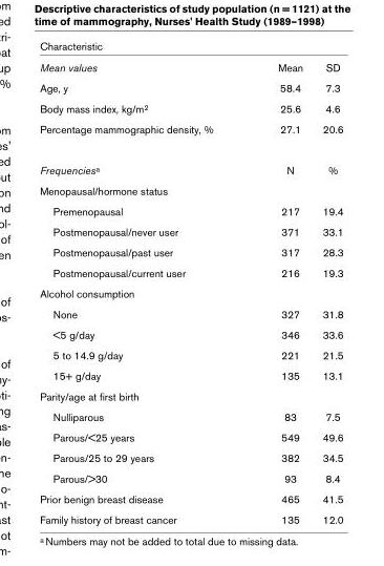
<table><thead><tr><td>Characteristic</td><td></td><td></td></tr></thead><tbody><tr><td>Mean values</td><td>Mean</td><td>SD</td></tr><tr><td>Age, y</td><td>58.4</td><td>7.3</td></tr><tr><td>Body mass index, kg/m<sup>2</sup></td><td>25.6</td><td>4.6</td></tr><tr><td>Percentage mammographic density, %</td><td>27.1</td><td>20.6</td></tr><tr><td>Frequencies<sup>a</sup></td><td>N</td><td>%</td></tr><tr><td colspan="3">Menopausal/hormone status</td></tr><tr><td>Premenopausal</td><td>217</td><td>19.4</td></tr><tr><td>Postmenopausal/never user</td><td>371</td><td>33.1</td></tr><tr><td>Postmenopausal/past user</td><td>317</td><td>28.3</td></tr><tr><td>Postmenopausal/current user</td><td>216</td><td>19.3</td></tr><tr><td colspan="3">Alcohol consumption</td></tr><tr><td>None</td><td>327</td><td>31.8</td></tr><tr><td>&lt;5 g/day</td><td>346</td><td>33.6</td></tr><tr><td>5 to 14.9 g/day</td><td>221</td><td>21.5</td></tr><tr><td>15+ g/day</td><td>135</td><td>13.1</td></tr><tr><td colspan="3">Parity/age at first birth</td></tr><tr><td>Nulliparous</td><td>83</td><td>7.5</td></tr><tr><td>Parous/&lt;25 years</td><td>549</td><td>49.6</td></tr><tr><td>Parous/25 to 29 years</td><td>382</td><td>34.5</td></tr><tr><td>Parous/&gt;30</td><td>93</td><td>8.4</td></tr><tr><td>Prior benign breast disease</td><td>465</td><td>41.5</td></tr><tr><td>Family history of breast cancer</td><td>135</td><td>12.0</td></tr></tbody></table>